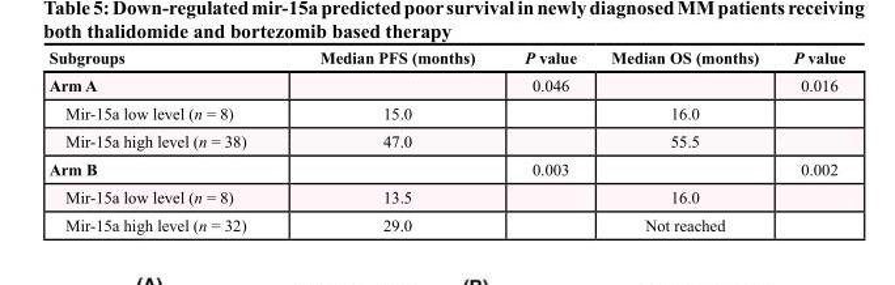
<table><thead><tr><td>Subgroups</td><td>Median PFS (months)</td><td>P value</td><td>Median OS (months)</td><td>P value</td></tr></thead><tbody><tr><td>Arm A</td><td></td><td>0.046</td><td></td><td>0.016</td></tr><tr><td>Mir-15a low level (n = 8)</td><td>15.0</td><td></td><td>16.0</td><td></td></tr><tr><td>Mir-15a high level (n = 38)</td><td>47.0</td><td></td><td>55.5</td><td></td></tr><tr><td>Arm B</td><td></td><td>0.003</td><td></td><td>0.002</td></tr><tr><td>Mir-15a low level (n = 8)</td><td>13.5</td><td></td><td>16.0</td><td></td></tr><tr><td>Mir-15a high level (n = 32)</td><td>29.0</td><td></td><td>Not reached</td><td></td></tr></tbody></table>